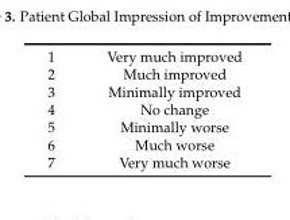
<table><tbody><tr><td>1</td><td>Very much improved</td></tr><tr><td>2</td><td>Much improved</td></tr><tr><td>3</td><td>Minimally improved</td></tr><tr><td>4</td><td>No change</td></tr><tr><td>5</td><td>Minimally worse</td></tr><tr><td>6</td><td>Much worse</td></tr><tr><td>7</td><td>Very much worse</td></tr></tbody></table>